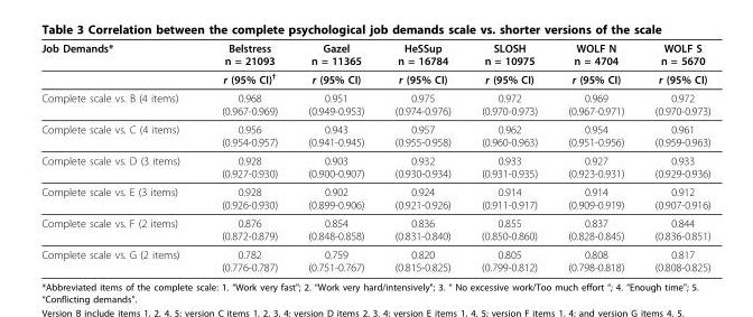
<table><thead><tr><td>Job Demands*</td><td>Belstress n = 21093</td><td>Gazel n = 11365</td><td>HeSSup n = 16784</td><td>SLOSH n = 10975</td><td>WOLF N n = 4704</td><td>WOLF S n = 5670</td></tr></thead><tbody><tr><td></td><td>r (95% CI)<sup>†</sup></td><td>r (95% CI)</td><td>r (95% CI)</td><td>r (95% CI)</td><td>r (95% CI)</td><td>r (95% CI)</td></tr><tr><td>Complete scale vs. B (4 items)</td><td>0.968 (0.967-0.969)</td><td>0.951 (0.949-0.953)</td><td>0.975 (0.974-0.976)</td><td>0.972 (0.970-0.973)</td><td>0.969 (0.967-0.971)</td><td>0.972 (0.970-0.973)</td></tr><tr><td>Complete scale vs. C (4 items)</td><td>0.956 (0.954-0.957)</td><td>0.943 (0.941-0.945)</td><td>0.957 (0.955-0.958)</td><td>0.962 (0.960-0.963)</td><td>0.954 (0.951-0.956)</td><td>0.961 (0.959-0.963)</td></tr><tr><td>Complete scale vs. D (3 items)</td><td>0.928 (0.927-0.930)</td><td>0.903 (0.900-0.907)</td><td>0.932 (0.930-0.934)</td><td>0.933 (0.931-0.935)</td><td>0.927 (0.923-0.931)</td><td>0.933 (0.929-0.936)</td></tr><tr><td>Complete scale vs. E (3 items)</td><td>0.928 (0.926-0.930)</td><td>0.902 (0.899-0.906)</td><td>0.924 (0.921-0.926)</td><td>0.914 (0.911-0.917)</td><td>0.914 (0.909-0.919)</td><td>0.912 (0.907-0.916)</td></tr><tr><td>Complete scale vs. F (2 items)</td><td>0.876 (0.872-0.879)</td><td>0.854 (0.848-0.858)</td><td>0.836 (0.831-0.840)</td><td>0.855 (0.850-0.860)</td><td>0.837 (0.828-0.845)</td><td>0.844 (0.836-0.851)</td></tr><tr><td>Complete scale vs. G (2 items)</td><td>0.782 (0.776-0.787)</td><td>0.759 (0.751-0.767)</td><td>0.820 (0.815-0.825)</td><td>0.805 (0.799-0.812)</td><td>0.808 (0.798-0.818)</td><td>0.817 (0.808-0.825)</td></tr></tbody></table>